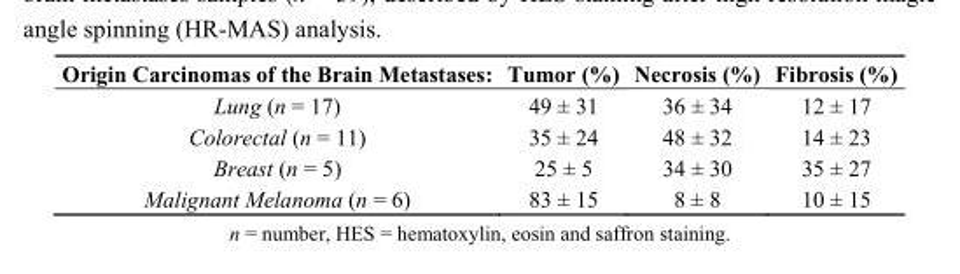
<table><thead><tr><td>Origin Carcinomas of the Brain Metastases:</td><td>Tumor (%)</td><td>Necrosis (%)</td><td>Fibrosis (%)</td></tr></thead><tbody><tr><td>Lung (n = 17)</td><td>49 ± 31</td><td>36 ± 34</td><td>12 ± 17</td></tr><tr><td>Colorectal (n = 11)</td><td>35 ± 24</td><td>48 ± 32</td><td>14 ± 23</td></tr><tr><td>Breast (n = 5)</td><td>25 ± 5</td><td>34 ± 30</td><td>35 ± 27</td></tr><tr><td>Malignant Melanoma (n = 6)</td><td>83 ± 15</td><td>8 ± 8</td><td>10 ± 15</td></tr></tbody></table>